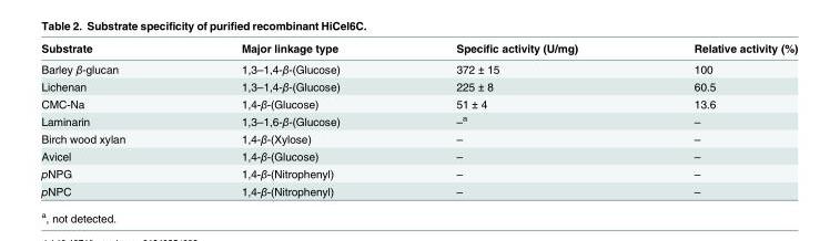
<table><thead><tr><td>Substrate</td><td>Major linkage type</td><td>Specific activity (U/mg)</td><td>Relative activity (%)</td></tr></thead><tbody><tr><td>Barley β-glucan</td><td>1,3–1,4-β-(Glucose)</td><td>372 ± 15</td><td>100</td></tr><tr><td>Lichenan</td><td>1,3–1,4-β-(Glucose)</td><td>225 ± 8</td><td>60.5</td></tr><tr><td>CMC-Na</td><td>1,4-β-(Glucose)</td><td>51 ± 4</td><td>13.6</td></tr><tr><td>Laminarin</td><td>1,3–1,6-β-(Glucose)</td><td>–<sup>a</sup></td><td>–</td></tr><tr><td>Birch wood xylan</td><td>1,4-β-(Xylose)</td><td>–</td><td>–</td></tr><tr><td>Avicel</td><td>1,4-β-(Glucose)</td><td>–</td><td>–</td></tr><tr><td>pNPG</td><td>1,4-β-(Nitrophenyl)</td><td>–</td><td>–</td></tr><tr><td>pNPC</td><td>1,4-β-(Nitrophenyl)</td><td>–</td><td>–</td></tr></tbody></table>